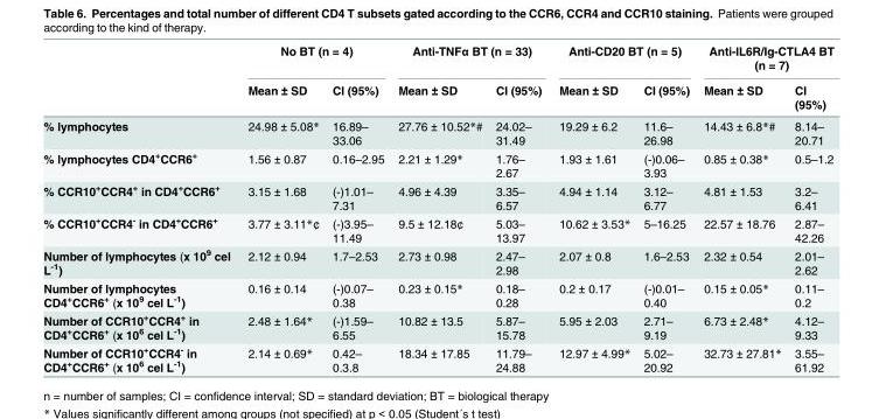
<table><thead><tr><td rowspan="2"></td><td colspan="2">No BT (n = 4)</td><td colspan="2">Anti-TNFα BT (n = 33)</td><td colspan="2">Anti-CD20 BT (n = 5)</td><td colspan="2">Anti-IL6R/Ig-CTLA4 BT (n = 7)</td></tr><tr><td>Mean ± SD</td><td>CI (95%)</td><td>Mean ± SD</td><td>CI (95%)</td><td>Mean ± SD</td><td>CI (95%)</td><td>Mean ± SD</td><td>CI (95%)</td></tr></thead><tbody><tr><td>% lymphocytes</td><td>24.98 ± 5.08*</td><td>16.89– 33.06</td><td>27.76 ± 10.52*#</td><td>24.02– 31.49</td><td>19.29 ± 6.2</td><td>11.6– 26.98</td><td>14.43 ± 6.8*#</td><td>8.14– 20.71</td></tr><tr><td>% lymphocytes CD4<sup>+</sup>CCR6<sup>+</sup></td><td>1.56 ± 0.87</td><td>0.16–2.95</td><td>2.21 ± 1.29*</td><td>1.76– 2.67</td><td>1.93 ± 1.61</td><td>(-)0.06– 3.93</td><td>0.85 ± 0.38*</td><td>0.5–1.2</td></tr><tr><td>% CCR10<sup>+</sup>CCR4<sup>+</sup> in CD4<sup>+</sup>CCR6<sup>+</sup></td><td>3.15 ± 1.68</td><td>(-)1.01– 7.31</td><td>4.96 ± 4.39</td><td>3.35– 6.57</td><td>4.94 ± 1.14</td><td>3.12– 6.77</td><td>4.81 ± 1.53</td><td>3.2– 6.41</td></tr><tr><td>% CCR10<sup>+</sup>CCR4<sup>-</sup> in CD4<sup>+</sup>CCR6<sup>+</sup></td><td>3.77 ± 3.11*¢</td><td>(-)3.95– 11.49</td><td>9.5 ± 12.18¢</td><td>5.03– 13.97</td><td>10.62 ± 3.53*</td><td>5–16.25</td><td>22.57 ± 18.76</td><td>2.87– 42.26</td></tr><tr><td>Number of lymphocytes (x 10<sup>9</sup> cel L<sup>-1</sup>)</td><td>2.12 ± 0.94</td><td>1.7–2.53</td><td>2.73 ± 0.98</td><td>2.47– 2.98</td><td>2.07 ± 0.8</td><td>1.6–2.53</td><td>2.32 ± 0.54</td><td>2.01– 2.62</td></tr><tr><td>Number of lymphocytes CD4<sup>+</sup>CCR6<sup>+</sup> (x 10<sup>9</sup> cel L<sup>-1</sup>)</td><td>0.16 ± 0.14</td><td>(-)0.07– 0.38</td><td>0.23 ± 0.15*</td><td>0.18– 0.28</td><td>0.2 ± 0.17</td><td>(-)0.01– 0.40</td><td>0.15 ± 0.05*</td><td>0.11– 0.2</td></tr><tr><td>Number of CCR10+CCR4+ in CD4+CCR6+ (x 106 cel L-1)</td><td>2.48 ± 1.64*</td><td>(-)1.59– 6.55</td><td>10.82 ± 13.5</td><td>5.87– 15.78</td><td>5.95 ± 2.03</td><td>2.71– 9.19</td><td>6.73 ± 2.48*</td><td>4.12– 9.33</td></tr><tr><td>Number of CCR10+CCR4- in CD4+CCR6+ (x 106 cel L-1)</td><td>2.14 ± 0.69*</td><td>0.42– 0.3.8</td><td>18.34 ± 17.85</td><td>11.79– 24.88</td><td>12.97 ± 4.99*</td><td>5.02– 20.92</td><td>32.73 ± 27.81*</td><td>3.55– 61.92</td></tr></tbody></table>